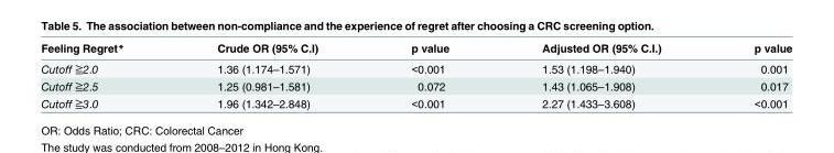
<table><thead><tr><td>Feeling Regret*</td><td>Crude OR (95% C.I)</td><td>p value</td><td>Adjusted OR (95% C.I.)</td><td>p value</td></tr></thead><tbody><tr><td>Cutoff ≧2.0</td><td>1.36 (1.174–1.571)</td><td>&lt;0.001</td><td>1.53 (1.198–1.940)</td><td>0.001</td></tr><tr><td>Cutoff ≧2.5</td><td>1.25 (0.981–1.581)</td><td>0.072</td><td>1.43 (1.065–1.908)</td><td>0.017</td></tr><tr><td>Cutoff ≧3.0</td><td>1.96 (1.342–2.848)</td><td>&lt;0.001</td><td>2.27 (1.433–3.608)</td><td>&lt;0.001</td></tr></tbody></table>